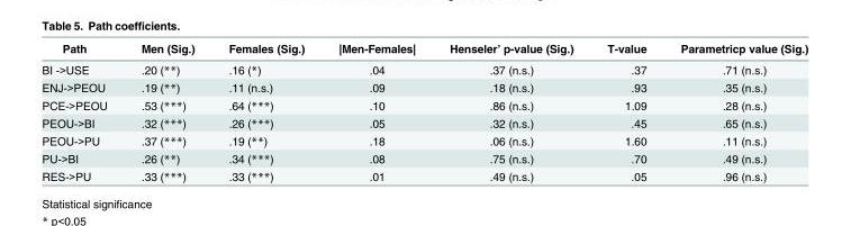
<table><thead><tr><td>Path</td><td>Men (Sig.)</td><td>Females (Sig.)</td><td>|Men-Females|</td><td>Henseler’ p-value (Sig.)</td><td>T-value</td><td>Parametricp value (Sig.)</td></tr></thead><tbody><tr><td>BI -&gt;USE</td><td>.20 (**)</td><td>.16 (*)</td><td>.04</td><td>.37 (n.s.)</td><td>.37</td><td>.71 (n.s.)</td></tr><tr><td>ENJ-&gt;PEOU</td><td>.19 (**)</td><td>.11 (n.s.)</td><td>.09</td><td>.18 (n.s.)</td><td>.93</td><td>.35 (n.s.)</td></tr><tr><td>PCE-&gt;PEOU</td><td>.53 (***)</td><td>.64 (***)</td><td>.10</td><td>.86 (n.s.)</td><td>1.09</td><td>.28 (n.s.)</td></tr><tr><td>PEOU-&gt;BI</td><td>.32 (***)</td><td>.26 (***)</td><td>.05</td><td>.32 (n.s.)</td><td>.45</td><td>.65 (n.s.)</td></tr><tr><td>PEOU-&gt;PU</td><td>.37 (***)</td><td>.19 (**)</td><td>.18</td><td>.06 (n.s.)</td><td>1.60</td><td>.11 (n.s.)</td></tr><tr><td>PU-&gt;BI</td><td>.26 (**)</td><td>.34 (***)</td><td>.08</td><td>.75 (n.s.)</td><td>.70</td><td>.49 (n.s.)</td></tr><tr><td>RES-&gt;PU</td><td>.33 (***)</td><td>.33 (***)</td><td>.01</td><td>.49 (n.s.)</td><td>.05</td><td>.96 (n.s.)</td></tr></tbody></table>